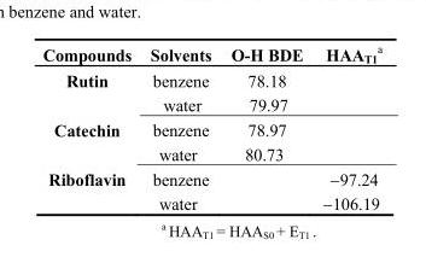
<table><thead><tr><td>Compounds</td><td>Solvents</td><td>O-H BDE</td><td>HAA<sub>T1</sub> <sup>a</sup></td></tr></thead><tbody><tr><td rowspan="2">Rutin</td><td>benzene</td><td>78.18</td><td></td></tr><tr><td>water</td><td>79.97</td><td></td></tr><tr><td rowspan="2">Catechin</td><td>benzene</td><td>78.97</td><td></td></tr><tr><td>water</td><td>80.73</td><td></td></tr><tr><td rowspan="2">Riboflavin</td><td>benzene</td><td></td><td>−97.24</td></tr><tr><td>water</td><td></td><td>−106.19</td></tr></tbody></table>